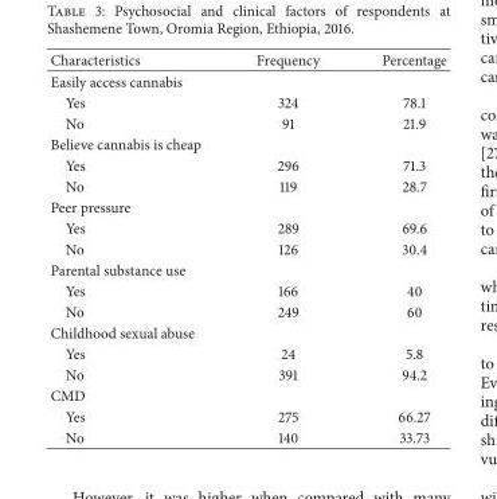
<table><thead><tr><td>Characteristics</td><td>Frequency</td><td>Percentage</td></tr></thead><tbody><tr><td colspan="3">Easily access cannabis</td></tr><tr><td>Yes</td><td>324</td><td>78.1</td></tr><tr><td>No</td><td>91</td><td>21.9</td></tr><tr><td colspan="3">Believe cannabis is cheap</td></tr><tr><td>Yes</td><td>296</td><td>71.3</td></tr><tr><td>No</td><td>119</td><td>28.7</td></tr><tr><td colspan="3">Peer pressure</td></tr><tr><td>Yes</td><td>289</td><td>69.6</td></tr><tr><td>No</td><td>126</td><td>30.4</td></tr><tr><td colspan="3">Parental substance use</td></tr><tr><td>Yes</td><td>166</td><td>40</td></tr><tr><td>No</td><td>249</td><td>60</td></tr><tr><td colspan="3">Childhood sexual abuse</td></tr><tr><td>Yes</td><td>24</td><td>5.8</td></tr><tr><td>No</td><td>391</td><td>94.2</td></tr><tr><td colspan="3">CMD</td></tr><tr><td>Yes</td><td>275</td><td>66.27</td></tr><tr><td>No</td><td>140</td><td>33.73</td></tr></tbody></table>